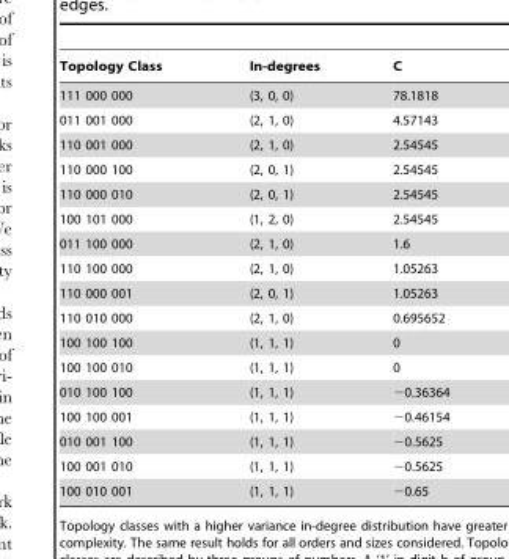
<table><thead><tr><td>Topology Class</td><td>In-degrees</td><td>C</td></tr></thead><tbody><tr><td>111 000 000</td><td>(3, 0, 0)</td><td>78.1818</td></tr><tr><td>011 001 000</td><td>(2, 1, 0)</td><td>4.57143</td></tr><tr><td>110 001 000</td><td>(2, 1, 0)</td><td>2.54545</td></tr><tr><td>110 000 100</td><td>(2, 0, 1)</td><td>2.54545</td></tr><tr><td>110 000 010</td><td>(2, 0, 1)</td><td>2.54545</td></tr><tr><td>100 101 000</td><td>(1, 2, 0)</td><td>2.54545</td></tr><tr><td>011 100 000</td><td>(2, 1, 0)</td><td>1.6</td></tr><tr><td>110 100 000</td><td>(2, 1, 0)</td><td>1.05263</td></tr><tr><td>110 000 001</td><td>(2, 0, 1)</td><td>1.05263</td></tr><tr><td>110 010 000</td><td>(2, 1, 0)</td><td>0.695652</td></tr><tr><td>100 100 100</td><td>(1, 1, 1)</td><td>0</td></tr><tr><td>100 100 010</td><td>(1, 1, 1)</td><td>0</td></tr><tr><td>010 100 100</td><td>(1, 1, 1)</td><td>−0.36364</td></tr><tr><td>100 100 001</td><td>(1, 1, 1)</td><td>−0.46154</td></tr><tr><td>010 001 100</td><td>(1, 1, 1)</td><td>−0.5625</td></tr><tr><td>100 001 010</td><td>(1, 1, 1)</td><td>−0.5625</td></tr><tr><td>100 010 001</td><td>(1, 1, 1)</td><td>−0.65</td></tr></tbody></table>